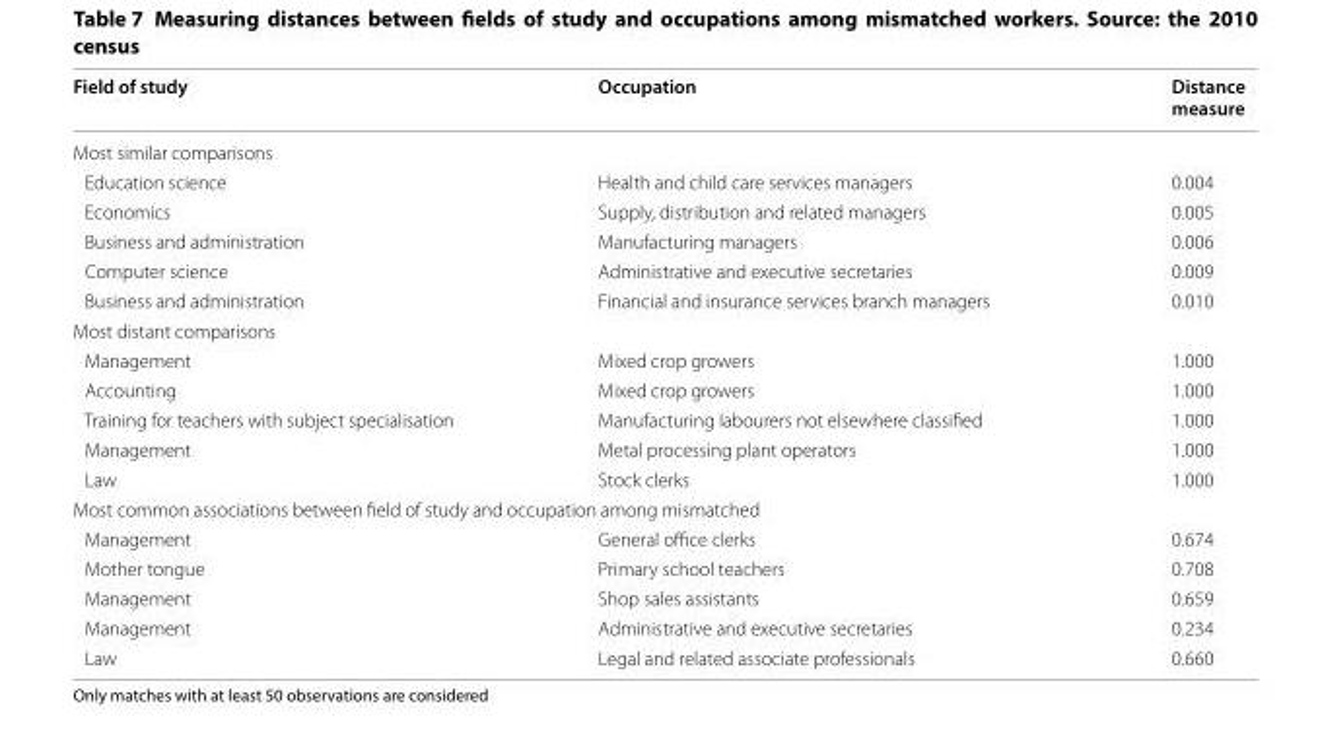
<table><thead><tr><td>Field of study</td><td>Occupation</td><td>Distance measure</td></tr></thead><tbody><tr><td colspan="3">Most similar comparisons</td></tr><tr><td>Education science</td><td>Health and child care services managers</td><td>0.004</td></tr><tr><td>Economics</td><td>Supply, distribution and related managers</td><td>0.005</td></tr><tr><td>Business and administration</td><td>Manufacturing managers</td><td>0.006</td></tr><tr><td>Computer science</td><td>Administrative and executive secretaries</td><td>0.009</td></tr><tr><td>Business and administration</td><td>Financial and insurance services branch managers</td><td>0.010</td></tr><tr><td colspan="3">Most distant comparisons</td></tr><tr><td>Management</td><td>Mixed crop growers</td><td>1.000</td></tr><tr><td>Accounting</td><td>Mixed crop growers</td><td>1.000</td></tr><tr><td>Training for teachers with subject specialisation</td><td>Manufacturing labourers not elsewhere classified</td><td>1.000</td></tr><tr><td>Management</td><td>Metal processing plant operators</td><td>1.000</td></tr><tr><td>Law</td><td>Stock clerks</td><td>1.000</td></tr><tr><td colspan="3">Most common associations between field of study and occupation among mismatched</td></tr><tr><td>Management</td><td>General office clerks</td><td>0.674</td></tr><tr><td>Mother tongue</td><td>Primary school teachers</td><td>0.708</td></tr><tr><td>Management</td><td>Shop sales assistants</td><td>0.659</td></tr><tr><td>Management</td><td>Administrative and executive secretaries</td><td>0.234</td></tr><tr><td>Law</td><td>Legal and related associate professionals</td><td>0.660</td></tr></tbody></table>